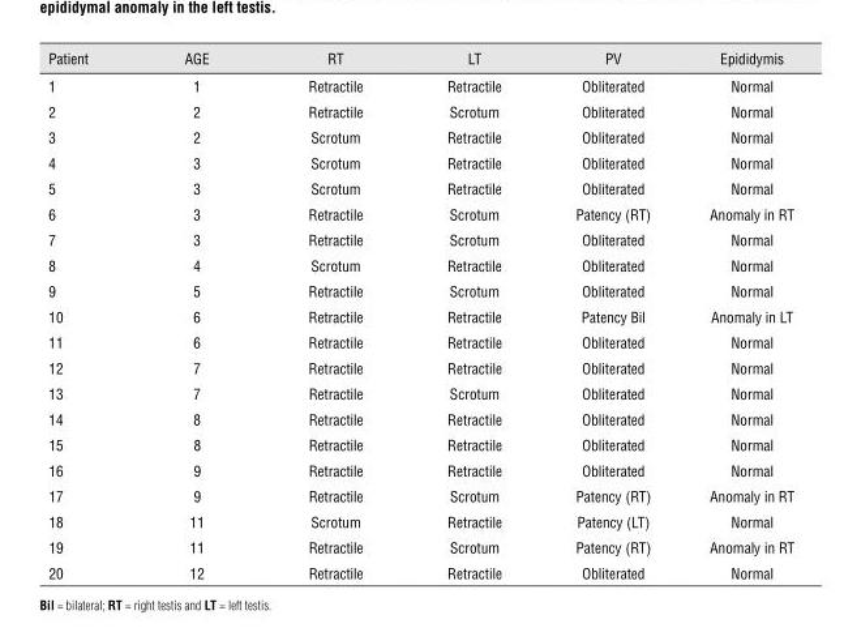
<table><thead><tr><td>Patient</td><td>AGE</td><td>RT</td><td>LT</td><td>PV</td><td>Epididymis</td></tr></thead><tbody><tr><td>1</td><td>1</td><td>Retractile</td><td>Retractile</td><td>Obliterated</td><td>Normal</td></tr><tr><td>2</td><td>2</td><td>Retractile</td><td>Scrotum</td><td>Obliterated</td><td>Normal</td></tr><tr><td>3</td><td>2</td><td>Scrotum</td><td>Retractile</td><td>Obliterated</td><td>Normal</td></tr><tr><td>4</td><td>3</td><td>Scrotum</td><td>Retractile</td><td>Obliterated</td><td>Normal</td></tr><tr><td>5</td><td>3</td><td>Scrotum</td><td>Retractile</td><td>Obliterated</td><td>Normal</td></tr><tr><td>6</td><td>3</td><td>Retractile</td><td>Scrotum</td><td>Patency (RT)</td><td>Anomaly in RT</td></tr><tr><td>7</td><td>3</td><td>Retractile</td><td>Scrotum</td><td>Obliterated</td><td>Normal</td></tr><tr><td>8</td><td>4</td><td>Scrotum</td><td>Retractile</td><td>Obliterated</td><td>Normal</td></tr><tr><td>9</td><td>5</td><td>Retractile</td><td>Scrotum</td><td>Obliterated</td><td>Normal</td></tr><tr><td>10</td><td>6</td><td>Retractile</td><td>Retractile</td><td>Patency Bil</td><td>Anomaly in LT</td></tr><tr><td>11</td><td>6</td><td>Retractile</td><td>Retractile</td><td>Obliterated</td><td>Normal</td></tr><tr><td>12</td><td>7</td><td>Retractile</td><td>Retractile</td><td>Obliterated</td><td>Normal</td></tr><tr><td>13</td><td>7</td><td>Retractile</td><td>Scrotum</td><td>Obliterated</td><td>Normal</td></tr><tr><td>14</td><td>8</td><td>Retractile</td><td>Retractile</td><td>Obliterated</td><td>Normal</td></tr><tr><td>15</td><td>8</td><td>Retractile</td><td>Retractile</td><td>Obliterated</td><td>Normal</td></tr><tr><td>16</td><td>9</td><td>Retractile</td><td>Retractile</td><td>Obliterated</td><td>Normal</td></tr><tr><td>17</td><td>9</td><td>Retractile</td><td>Scrotum</td><td>Patency (RT)</td><td>Anomaly in RT</td></tr><tr><td>18</td><td>11</td><td>Scrotum</td><td>Retractile</td><td>Patency (LT)</td><td>Normal</td></tr><tr><td>19</td><td>11</td><td>Retractile</td><td>Scrotum</td><td>Patency (RT)</td><td>Anomaly in RT</td></tr><tr><td>20</td><td>12</td><td>Retractile</td><td>Retractile</td><td>Obliterated</td><td>Normal</td></tr></tbody></table>